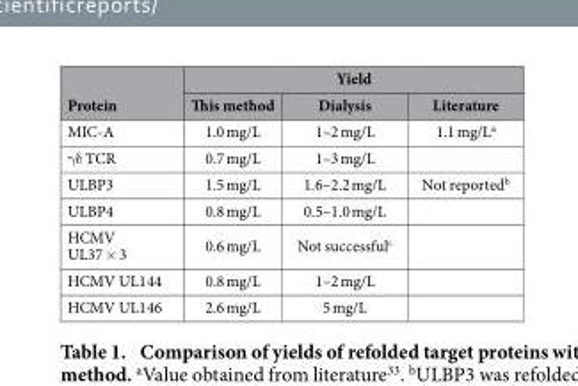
<table><thead><tr><td rowspan="2">Protein</td><td colspan="3">Yield</td></tr><tr><td>This method</td><td>Dialysis</td><td>Literature</td></tr></thead><tbody><tr><td>MIC-A</td><td>1.0 mg/L</td><td>1–2 mg/L</td><td>1.1 mg/L<sup>a</sup></td></tr><tr><td>γ δ TCR</td><td>0.7 mg/L</td><td>1–3 mg/L</td><td></td></tr><tr><td>ULBP3</td><td>1.5 mg/L</td><td>1.6–2.2 mg/L</td><td>Not reported<sup>b</sup></td></tr><tr><td>ULBP4</td><td>0.8 mg/L</td><td>0.5–1.0 mg/L</td><td></td></tr><tr><td>HCMV UL37 × 3</td><td>0.6 mg/L</td><td>Not successful<sup>c</sup></td><td></td></tr><tr><td>HCMV UL144</td><td>0.8 mg/L</td><td>1–2 mg/L</td><td></td></tr><tr><td>HCMV UL146</td><td>2.6 mg/L</td><td>5 mg/L</td><td></td></tr></tbody></table>